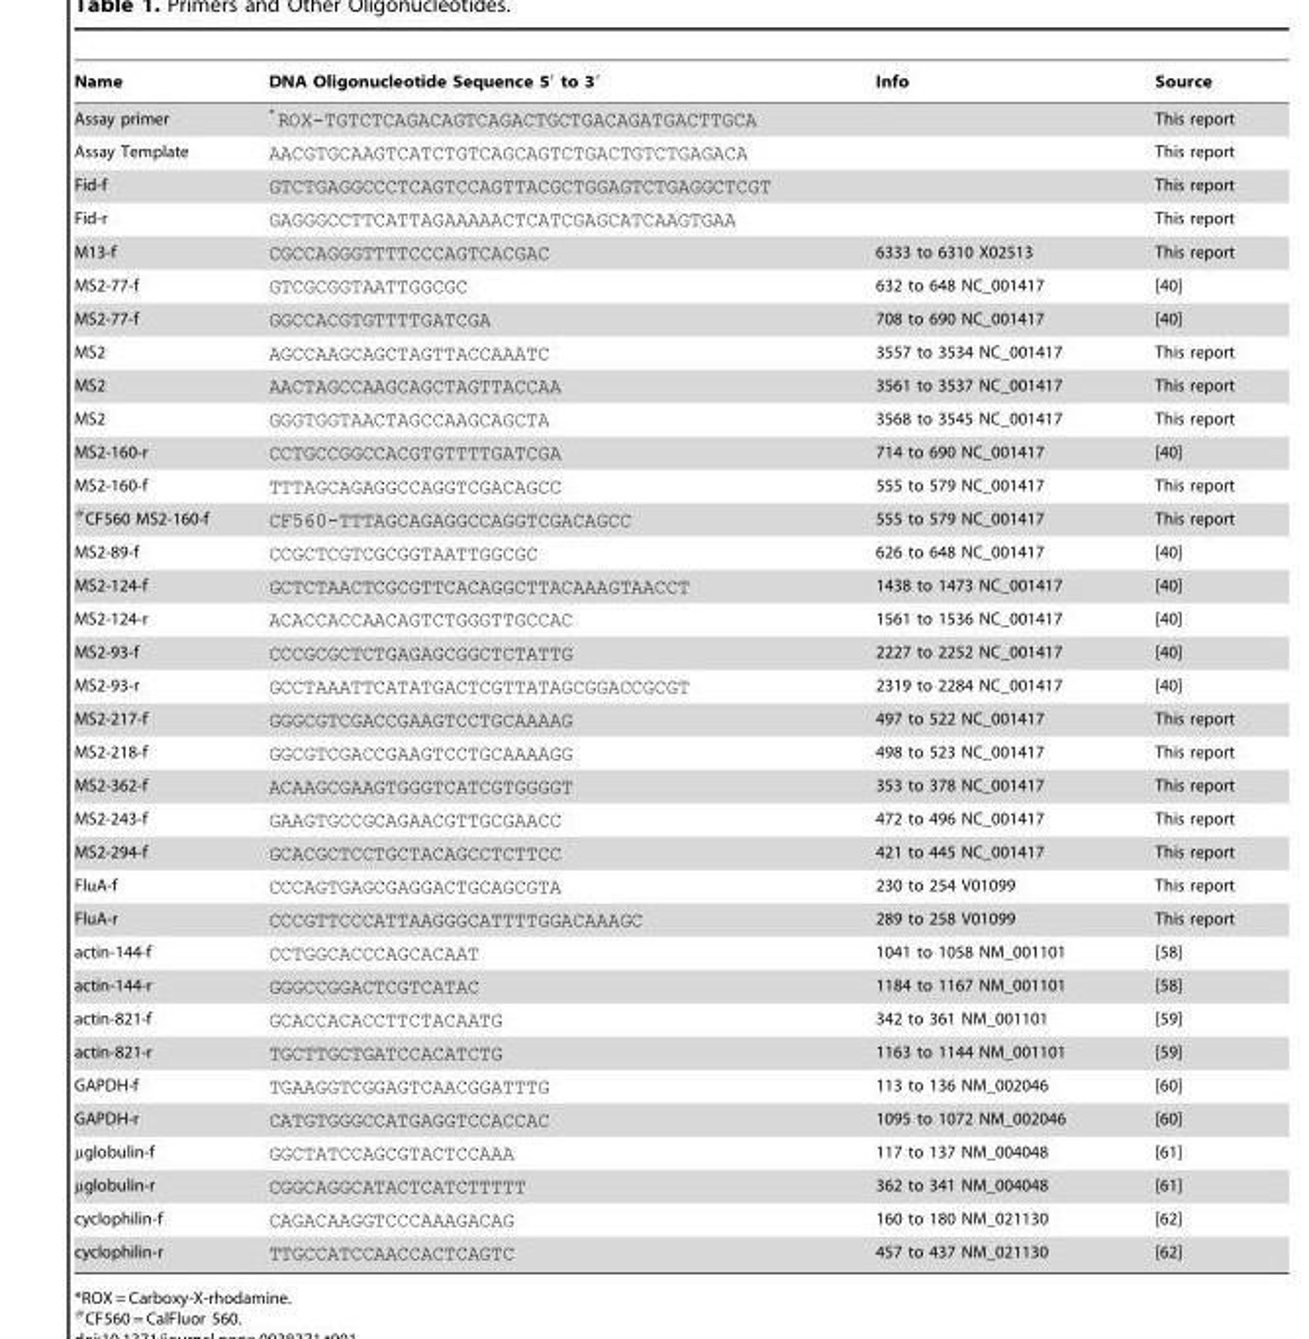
<table><thead><tr><td>Name</td><td>DNA Oligonucleotide Sequence 5′ to 3′</td><td>Info</td><td>Source</td></tr></thead><tbody><tr><td>Assay primer</td><td>*ROX-TGTCTCAGACAGTCAGACTGCTGACAGATGACTTGCA</td><td></td><td>This report</td></tr><tr><td>Assay Template</td><td>AACGTGCAAGTCATCTGTCAGCAGTCTGACTGTCTGAGACA</td><td></td><td>This report</td></tr><tr><td>Fid-f</td><td>GTCTGAGGCCCTCAGTCCAGTTACGCTGGAGTCTGAGGCTCGT</td><td></td><td>This report</td></tr><tr><td>Fid-r</td><td>GAGGGCCTTCATTAGAAAAACTCATCGAGCATCAAGTGAA</td><td></td><td>This report</td></tr><tr><td>M13-f</td><td>CGCCAGGGTTTTCCCAGTCACGAC</td><td>6333 to 6310 X02513</td><td>This report</td></tr><tr><td>MS2-77-f</td><td>GTCGCGGTAATTGGCGC</td><td>632 to 648 NC_001417</td><td>[40]</td></tr><tr><td>MS2-77-f</td><td>GGCCACGTGTTTTGATCGA</td><td>708 to 690 NC_001417</td><td>[40]</td></tr><tr><td>MS2</td><td>AGCCAAGCAGCTAGTTACCAAATC</td><td>3557 to 3534 NC_001417</td><td>This report</td></tr><tr><td>MS2</td><td>AACTAGCCAAGCAGCTAGTTACCAA</td><td>3561 to 3537 NC_001417</td><td>This report</td></tr><tr><td>MS2</td><td>GGGTGGTAACTAGCCAAGCAGCTA</td><td>3568 to 3545 NC_001417</td><td>This report</td></tr><tr><td>MS2-160-r</td><td>CCTGCCGGCCACGTGTTTTGATCGA</td><td>714 to 690 NC_001417</td><td>[40]</td></tr><tr><td>MS2-160-f</td><td>TTTAGCAGAGGCCAGGTCGACAGCC</td><td>555 to 579 NC_001417</td><td>This report</td></tr><tr><td>#CF560 MS2-160-f</td><td>CF560-TTTAGCAGAGGCCAGGTCGACAGCC</td><td>555 to 579 NC_001417</td><td>This report</td></tr><tr><td>MS2-89-f</td><td>CCGCTCGTCGCGGTAATTGGCGC</td><td>626 to 648 NC_001417</td><td>[40]</td></tr><tr><td>MS2-124-f</td><td>GCTCTAACTCGCGTTCACAGGCTTACAAAGTAACCT</td><td>1438 to 1473 NC_001417</td><td>[40]</td></tr><tr><td>MS2-124-r</td><td>ACACCACCAACAGTCTGGGTTGCCAC</td><td>1561 to 1536 NC_001417</td><td>[40]</td></tr><tr><td>MS2-93-f</td><td>CCCGCGCTCTGAGAGCGGCTCTATTG</td><td>2227 to 2252 NC_001417</td><td>[40]</td></tr><tr><td>MS2-93-r</td><td>GCCTAAATTCATATGACTCGTTATAGCGGACCGCGT</td><td>2319 to 2284 NC_001417</td><td>[40]</td></tr><tr><td>MS2-217-f</td><td>GGGCGTCGACCGAAGTCCTGCAAAAG</td><td>497 to 522 NC_001417</td><td>This report</td></tr><tr><td>MS2-218-f</td><td>GGCGTCGACCGAAGTCCTGCAAAAGG</td><td>498 to 523 NC_001417</td><td>This report</td></tr><tr><td>MS2-362-f</td><td>ACAAGCGAAGTGGGTCATCGTGGGGT</td><td>353 to 378 NC_001417</td><td>This report</td></tr><tr><td>MS2-243-f</td><td>GAAGTGCCGCAGAACGTTGCGAACC</td><td>472 to 496 NC_001417</td><td>This report</td></tr><tr><td>MS2-294-f</td><td>GCACGCTCCTGCTACAGCCTCTTCC</td><td>421 to 445 NC_001417</td><td>This report</td></tr><tr><td>FluA-f</td><td>CCCAGTGAGCGAGGACTGCAGCGTA</td><td>230 to 254 V01099</td><td>This report</td></tr><tr><td>FluA-r</td><td>CCCGTTCCCATTAAGGGCATTTTGGACAAAGC</td><td>289 to 258 V01099</td><td>This report</td></tr><tr><td>actin-144-f</td><td>CCTGGCACCCAGCACAAT</td><td>1041 to 1058 NM_001101</td><td>[58]</td></tr><tr><td>actin-144-r</td><td>GGGCCGGACTCGTCATAC</td><td>1184 to 1167 NM_001101</td><td>[58]</td></tr><tr><td>actin-821-f</td><td>GCACCACACCTTCTACAATG</td><td>342 to 361 NM_001101</td><td>[59]</td></tr><tr><td>actin-821-r</td><td>TGCTTGCTGATCCACATCTG</td><td>1163 to 1144 NM_001101</td><td>[59]</td></tr><tr><td>GAPDH-f</td><td>TGAAGGTCGGAGTCAACGGATTTG</td><td>113 to 136 NM_002046</td><td>[60]</td></tr><tr><td>GAPDH-r</td><td>CATGTGGGCCATGAGGTCCACCAC</td><td>1095 to 1072 NM_002046</td><td>[60]</td></tr><tr><td>μglobulin-f</td><td>GGCTATCCAGCGTACTCCAAA</td><td>117 to 137 NM_004048</td><td>[61]</td></tr><tr><td>μglobulin-r</td><td>CGGCAGGCATACTCATCTTTTT</td><td>362 to 341 NM_004048</td><td>[61]</td></tr><tr><td>cyclophilin-f</td><td>CAGACAAGGTCCCAAAGACAG</td><td>160 to 180 NM_021130</td><td>[62]</td></tr><tr><td>cyclophilin-r</td><td>TTGCCATCCAACCACTCAGTC</td><td>457 to 437 NM_021130</td><td>[62]</td></tr></tbody></table>